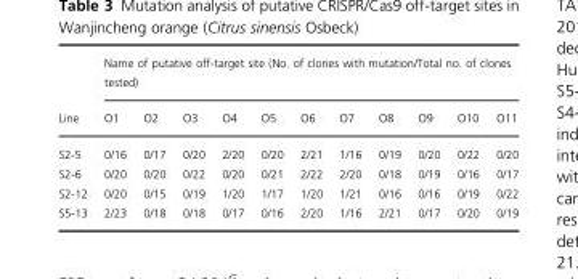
<table><thead><tr><td rowspan="2">Line</td><td colspan="11">Name of putative off-target site (No. of clones with mutation/Total no. of clones tested)</td></tr><tr><td>O1</td><td>O2</td><td>O3</td><td>O4</td><td>O5</td><td>O6</td><td>O7</td><td>O8</td><td>O9</td><td>O10</td><td>O11</td></tr></thead><tbody><tr><td>S2-5</td><td>0/16</td><td>0/17</td><td>0/20</td><td>2/20</td><td>0/20</td><td>2/21</td><td>1/16</td><td>0/19</td><td>0/20</td><td>0/22</td><td>0/20</td></tr><tr><td>S2-6</td><td>0/20</td><td>0/20</td><td>0/22</td><td>0/20</td><td>0/21</td><td>2/22</td><td>2/20</td><td>0/18</td><td>0/19</td><td>0/16</td><td>0/17</td></tr><tr><td>S2-12</td><td>0/20</td><td>0/15</td><td>0/19</td><td>1/20</td><td>1/17</td><td>1/20</td><td>1/21</td><td>0/16</td><td>0/16</td><td>0/19</td><td>0/22</td></tr><tr><td>S5-13</td><td>2/23</td><td>0/18</td><td>0/18</td><td>0/17</td><td>0/16</td><td>2/20</td><td>1/16</td><td>2/21</td><td>0/17</td><td>0/20</td><td>0/19</td></tr></tbody></table>